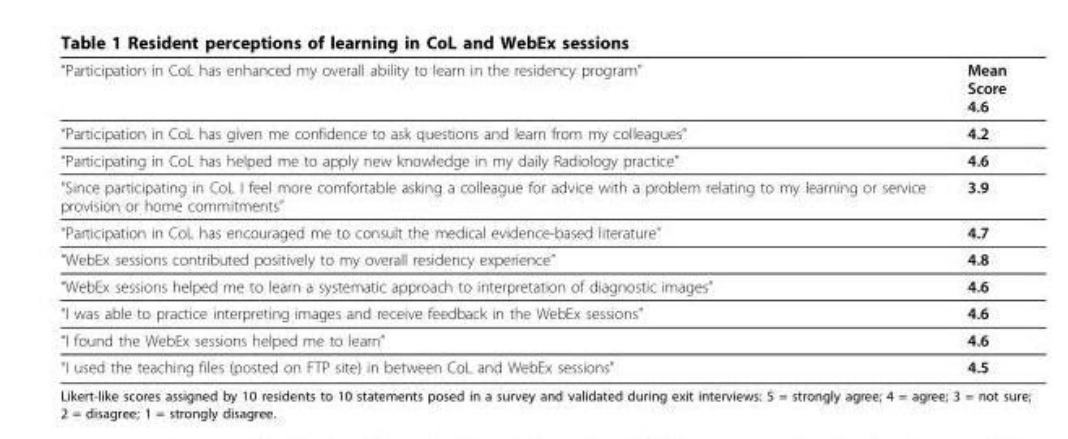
<table><thead><tr><td>“Participation in CoL has enhanced my overall ability to learn in the residency program”</td><td>Mean Score 4.6</td></tr></thead><tbody><tr><td>“Participation in CoL has given me confidence to ask questions and learn from my colleagues”</td><td>4.2</td></tr><tr><td>“Participating in CoL has helped me to apply new knowledge in my daily Radiology practice”</td><td>4.6</td></tr><tr><td>“Since participating in CoL I feel more comfortable asking a colleague for advice with a problem relating to my learning or service provision or home commitments”</td><td>3.9</td></tr><tr><td>“Participation in CoL has encouraged me to consult the medical evidence-based literature”</td><td>4.7</td></tr><tr><td>“WebEx sessions contributed positively to my overall residency experience”</td><td>4.8</td></tr><tr><td>“WebEx sessions helped me to learn a systematic approach to interpretation of diagnostic images”</td><td>4.6</td></tr><tr><td>“I was able to practice interpreting images and receive feedback in the WebEx sessions”</td><td>4.6</td></tr><tr><td>“I found the WebEx sessions helped me to learn”</td><td>4.6</td></tr><tr><td>“I used the teaching files (posted on FTP site) in between CoL and WebEx sessions”</td><td>4.5</td></tr></tbody></table>